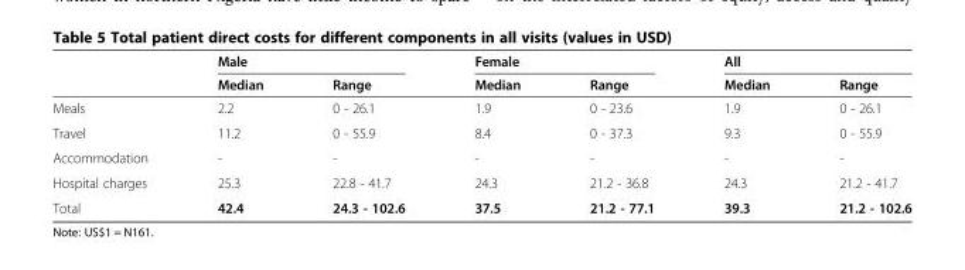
<table><thead><tr><td rowspan="2"></td><td colspan="2">Male</td><td colspan="2">Female</td><td colspan="2">All</td></tr><tr><td>Median</td><td>Range</td><td>Median</td><td>Range</td><td>Median</td><td>Range</td></tr></thead><tbody><tr><td>Meals</td><td>2.2</td><td>0 - 26.1</td><td>1.9</td><td>0 - 23.6</td><td>1.9</td><td>0 - 26.1</td></tr><tr><td>Travel</td><td>11.2</td><td>0 - 55.9</td><td>8.4</td><td>0 - 37.3</td><td>9.3</td><td>0 - 55.9</td></tr><tr><td>Accommodation</td><td>-</td><td>-</td><td>-</td><td>-</td><td>-</td><td>-</td></tr><tr><td>Hospital charges</td><td>25.3</td><td>22.8 - 41.7</td><td>24.3</td><td>21.2 - 36.8</td><td>24.3</td><td>21.2 - 41.7</td></tr><tr><td>Total</td><td>42.4</td><td>24.3 - 102.6</td><td>37.5</td><td>21.2 - 77.1</td><td>39.3</td><td>21.2 - 102.6</td></tr></tbody></table>